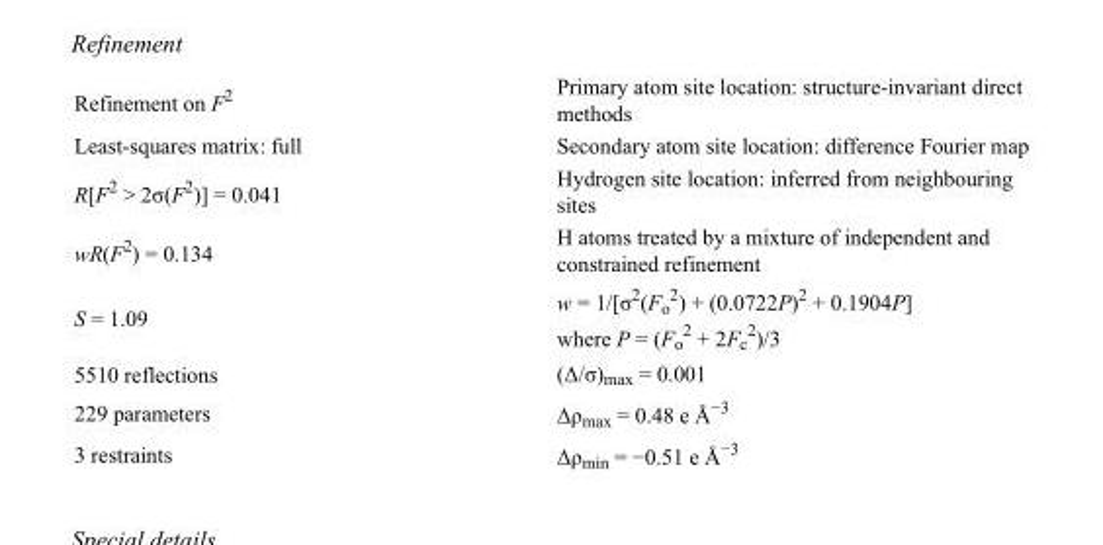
<table><tbody><tr><td>Refinement on F<sup>2</sup></td><td>Primary atom site location: structure-invariant direct methods</td></tr><tr><td>Least-squares matrix: full</td><td>Secondary atom site location: difference Fourier map</td></tr><tr><td>R[F<sup>2</sup> &gt; 2σ(F<sup>2</sup>)] = 0.041</td><td>Hydrogen site location: inferred from neighbouring sites</td></tr><tr><td>wR(F<sup>2</sup>) = 0.134</td><td>H atoms treated by a mixture of independent and constrained refinement</td></tr><tr><td>S = 1.09</td><td>w = 1/[σ<sup>2</sup>(F<sub>o</sub> <sup>2</sup>) + (0.0722P)<sup>2</sup> + 0.1904P] where P = (F<sub>o</sub> <sup>2</sup> + 2F<sub>c</sub> <sup>2</sup>)/3</td></tr><tr><td>5510 reflections</td><td>(Δ/σ)<sub>max</sub> = 0.001</td></tr><tr><td>229 parameters</td><td>Δρ<sub>max</sub> = 0.48 e Å<sup>−3</sup></td></tr><tr><td>3 restraints</td><td>Δρmin = −0.51 e Å−3</td></tr></tbody></table>